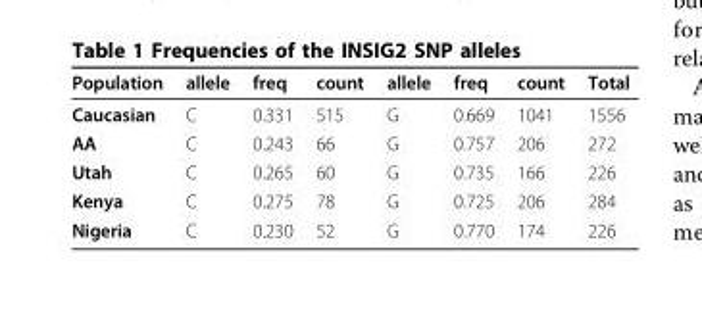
<table><thead><tr><td>Population</td><td>allele</td><td>freq</td><td>count</td><td>allele</td><td>freq</td><td>count</td><td>Total</td></tr></thead><tbody><tr><td>Caucasian</td><td>C</td><td>0.331</td><td>515</td><td>G</td><td>0.669</td><td>1041</td><td>1556</td></tr><tr><td>AA</td><td>C</td><td>0.243</td><td>66</td><td>G</td><td>0.757</td><td>206</td><td>272</td></tr><tr><td>Utah</td><td>C</td><td>0.265</td><td>60</td><td>G</td><td>0.735</td><td>166</td><td>226</td></tr><tr><td>Kenya</td><td>C</td><td>0.275</td><td>78</td><td>G</td><td>0.725</td><td>206</td><td>284</td></tr><tr><td>Nigeria</td><td>C</td><td>0.230</td><td>52</td><td>G</td><td>0.770</td><td>174</td><td>226</td></tr></tbody></table>